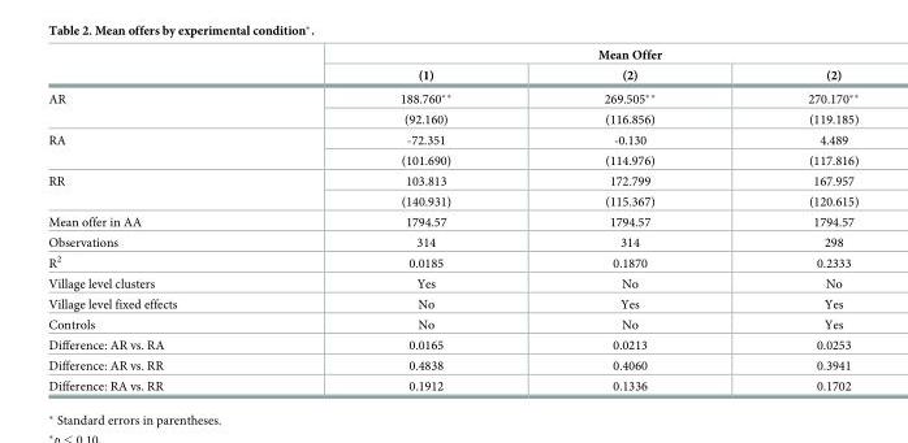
<table><thead><tr><td rowspan="2"></td><td colspan="3">Mean Offer</td></tr><tr><td>(1)</td><td>(2)</td><td>(2)</td></tr></thead><tbody><tr><td rowspan="2">AR</td><td>188.760**</td><td>269.505**</td><td>270.170**</td></tr><tr><td>(92.160)</td><td>(116.856)</td><td>(119.185)</td></tr><tr><td rowspan="2">RA</td><td>-72.351</td><td>-0.130</td><td>4.489</td></tr><tr><td>(101.690)</td><td>(114.976)</td><td>(117.816)</td></tr><tr><td rowspan="2">RR</td><td>103.813</td><td>172.799</td><td>167.957</td></tr><tr><td>(140.931)</td><td>(115.367)</td><td>(120.615)</td></tr><tr><td>Mean offer in AA</td><td>1794.57</td><td>1794.57</td><td>1794.57</td></tr><tr><td>Observations</td><td>314</td><td>314</td><td>298</td></tr><tr><td>R<sup>2</sup></td><td>0.0185</td><td>0.1870</td><td>0.2333</td></tr><tr><td>Village level clusters</td><td>Yes</td><td>No</td><td>No</td></tr><tr><td>Village level fixed effects</td><td>No</td><td>Yes</td><td>Yes</td></tr><tr><td>Controls</td><td>No</td><td>No</td><td>Yes</td></tr><tr><td>Difference: AR vs. RA</td><td>0.0165</td><td>0.0213</td><td>0.0253</td></tr><tr><td>Difference: AR vs. RR</td><td>0.4838</td><td>0.4060</td><td>0.3941</td></tr><tr><td>Difference: RA vs. RR</td><td>0.1912</td><td>0.1336</td><td>0.1702</td></tr></tbody></table>